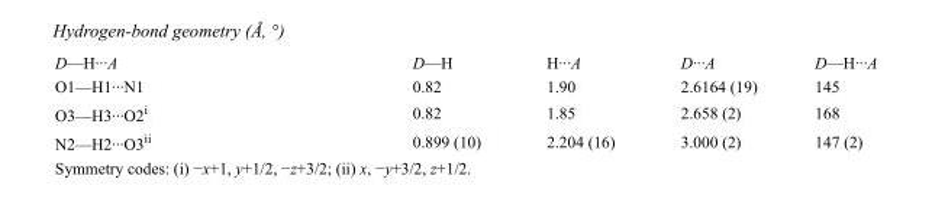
<table><tbody><tr><td>D—H···A</td><td>D—H</td><td>H···A</td><td>D···A</td><td>D—H···A</td></tr><tr><td>O1—H1···N1</td><td>0.82</td><td>1.90</td><td>2.6164 (19)</td><td>145</td></tr><tr><td>O3—H3···O2<sup>i</sup></td><td>0.82</td><td>1.85</td><td>2.658 (2)</td><td>168</td></tr><tr><td>N2—H2···O3<sup>ii</sup></td><td>0.899 (10)</td><td>2.204 (16)</td><td>3.000 (2)</td><td>147 (2)</td></tr></tbody></table>